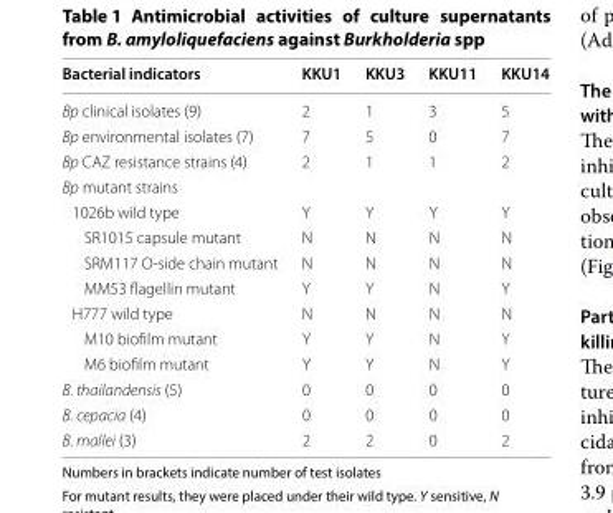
<table><thead><tr><td>Bacterial indicators</td><td>KKU1</td><td>KKU3</td><td>KKU11</td><td>KKU14</td></tr></thead><tbody><tr><td>Bp clinical isolates (9)</td><td>2</td><td>1</td><td>3</td><td>5</td></tr><tr><td>Bp environmental isolates (7)</td><td>7</td><td>5</td><td>0</td><td>7</td></tr><tr><td>Bp CAZ resistance strains (4)</td><td>2</td><td>1</td><td>1</td><td>2</td></tr><tr><td colspan="5">Bp mutant strains</td></tr><tr><td>1026b wild type</td><td>Y</td><td>Y</td><td>Y</td><td>Y</td></tr><tr><td>SR1015 capsule mutant</td><td>N</td><td>N</td><td>N</td><td>N</td></tr><tr><td>SRM117 O-side chain mutant</td><td>N</td><td>N</td><td>N</td><td>N</td></tr><tr><td>MM53 flagellin mutant</td><td>Y</td><td>Y</td><td>N</td><td>Y</td></tr><tr><td>H777 wild type</td><td>N</td><td>N</td><td>N</td><td>N</td></tr><tr><td>M10 biofilm mutant</td><td>Y</td><td>Y</td><td>N</td><td>Y</td></tr><tr><td>M6 biofilm mutant</td><td>Y</td><td>Y</td><td>N</td><td>Y</td></tr><tr><td>B. thailandensis (5)</td><td>0</td><td>0</td><td>0</td><td>0</td></tr><tr><td>B. cepacia (4)</td><td>0</td><td>0</td><td>0</td><td>0</td></tr><tr><td>B. mallei (3)</td><td>2</td><td>2</td><td>0</td><td>2</td></tr></tbody></table>